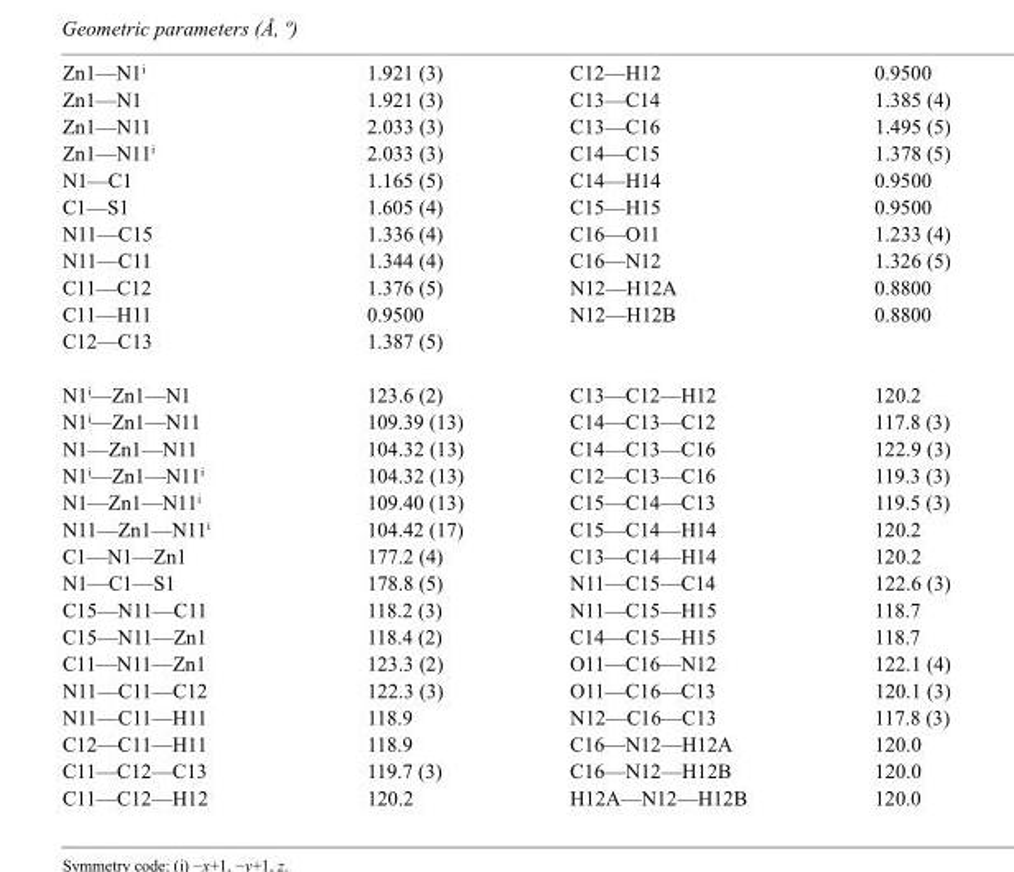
<table><tbody><tr><td>Zn1—N1<sup>i</sup></td><td>1.921 (3)</td><td>C12—H12</td><td>0.9500</td></tr><tr><td>Zn1—N1</td><td>1.921 (3)</td><td>C13—C14</td><td>1.385 (4)</td></tr><tr><td>Zn1—N11</td><td>2.033 (3)</td><td>C13—C16</td><td>1.495 (5)</td></tr><tr><td>Zn1—N11<sup>i</sup></td><td>2.033 (3)</td><td>C14—C15</td><td>1.378 (5)</td></tr><tr><td>N1—C1</td><td>1.165 (5)</td><td>C14—H14</td><td>0.9500</td></tr><tr><td>C1—S1</td><td>1.605 (4)</td><td>C15—H15</td><td>0.9500</td></tr><tr><td>N11—C15</td><td>1.336 (4)</td><td>C16—O11</td><td>1.233 (4)</td></tr><tr><td>N11—C11</td><td>1.344 (4)</td><td>C16—N12</td><td>1.326 (5)</td></tr><tr><td>C11—C12</td><td>1.376 (5)</td><td>N12—H12A</td><td>0.8800</td></tr><tr><td>C11—H11</td><td>0.9500</td><td>N12—H12B</td><td>0.8800</td></tr><tr><td>C12—C13</td><td>1.387 (5)</td><td></td><td></td></tr><tr><td>N1<sup>i</sup>—Zn1—N1</td><td>123.6 (2)</td><td>C13—C12—H12</td><td>120.2</td></tr><tr><td>N1<sup>i</sup>—Zn1—N11</td><td>109.39 (13)</td><td>C14—C13—C12</td><td>117.8 (3)</td></tr><tr><td>N1—Zn1—N11</td><td>104.32 (13)</td><td>C14—C13—C16</td><td>122.9 (3)</td></tr><tr><td>N1<sup>i</sup>—Zn1—N11<sup>i</sup></td><td>104.32 (13)</td><td>C12—C13—C16</td><td>119.3 (3)</td></tr><tr><td>N1—Zn1—N11<sup>i</sup></td><td>109.40 (13)</td><td>C15—C14—C13</td><td>119.5 (3)</td></tr><tr><td>N11—Zn1—N11<sup>i</sup></td><td>104.42 (17)</td><td>C15—C14—H14</td><td>120.2</td></tr><tr><td>C1—N1—Zn1</td><td>177.2 (4)</td><td>C13—C14—H14</td><td>120.2</td></tr><tr><td>N1—C1—S1</td><td>178.8 (5)</td><td>N11—C15—C14</td><td>122.6 (3)</td></tr><tr><td>C15—N11—C11</td><td>118.2 (3)</td><td>N11—C15—H15</td><td>118.7</td></tr><tr><td>C15—N11—Zn1</td><td>118.4 (2)</td><td>C14—C15—H15</td><td>118.7</td></tr><tr><td>C11—N11—Zn1</td><td>123.3 (2)</td><td>O11—C16—N12</td><td>122.1 (4)</td></tr><tr><td>N11—C11—C12</td><td>122.3 (3)</td><td>O11—C16—C13</td><td>120.1 (3)</td></tr><tr><td>N11—C11—H11</td><td>118.9</td><td>N12—C16—C13</td><td>117.8 (3)</td></tr><tr><td>C12—C11—H11</td><td>118.9</td><td>C16—N12—H12A</td><td>120.0</td></tr><tr><td>C11—C12—C13</td><td>119.7 (3)</td><td>C16—N12—H12B</td><td>120.0</td></tr><tr><td>C11—C12—H12</td><td>120.2</td><td>H12A—N12—H12B</td><td>120.0</td></tr></tbody></table>